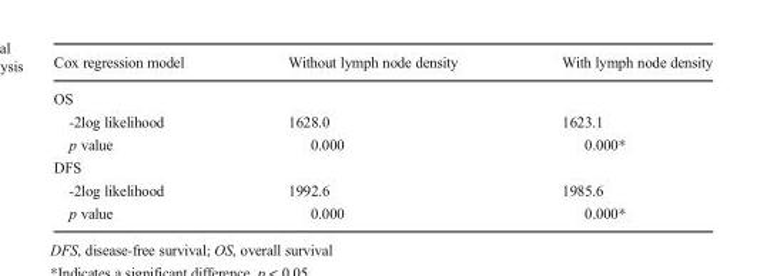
<table><thead><tr><td>Cox regression model</td><td>Without lymph node density</td><td>With lymph node density</td></tr></thead><tbody><tr><td colspan="3">OS</td></tr><tr><td>-2log likelihood</td><td>1628.0</td><td>1623.1</td></tr><tr><td>p value</td><td>0.000</td><td>0.000*</td></tr><tr><td colspan="3">DFS</td></tr><tr><td>-2log likelihood</td><td>1992.6</td><td>1985.6</td></tr><tr><td>p value</td><td>0.000</td><td>0.000*</td></tr></tbody></table>